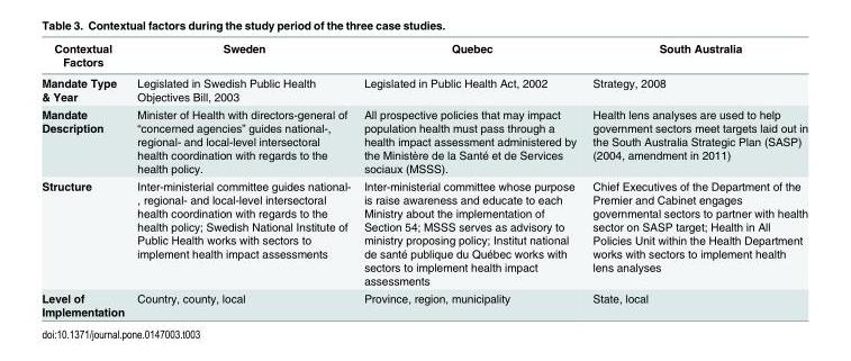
<table><thead><tr><td>Contextual Factors</td><td>Sweden</td><td>Quebec</td><td>South Australia</td></tr></thead><tbody><tr><td>Mandate Type &amp; Year</td><td>Legislated in Swedish Public Health Objectives Bill, 2003</td><td>Legislated in Public Health Act, 2002</td><td>Strategy, 2008</td></tr><tr><td>Mandate Description</td><td>Minister of Health with directors-general of “concerned agencies” guides national-, regional- and local-level intersectoral health coordination with regards to the health policy.</td><td>All prospective policies that may impact population health must pass through a health impact assessment administered by the Ministère de la Santé et de Services sociaux (MSSS).</td><td>Health lens analyses are used to help government sectors meet targets laid out in the South Australia Strategic Plan (SASP) (2004, amendment in 2011)</td></tr><tr><td>Structure</td><td>Inter-ministerial committee guides national- , regional- and local-level intersectoral health coordination with regards to the health policy; Swedish National Institute of Public Health works with sectors to implement health impact assessments</td><td>Inter-ministerial committee whose purpose is raise awareness and educate to each Ministry about the implementation of Section 54; MSSS serves as advisory to ministry proposing policy; Institut national de santé publique du Québec works with sectors to implement health impact assessments</td><td>Chief Executives of the Department of the Premier and Cabinet engages governmental sectors to partner with health sector on SASP target; Health in All Policies Unit within the Health Department works with sectors to implement health lens analyses</td></tr><tr><td>Level of Implementation</td><td>Country, county, local</td><td>Province, region, municipality</td><td>State, local</td></tr></tbody></table>